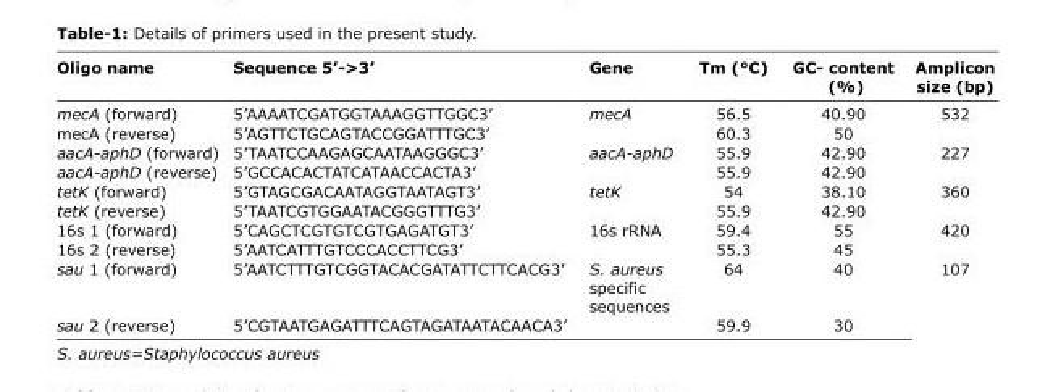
<table><thead><tr><td>Oligo name</td><td>Sequence 5’-&gt;3’</td><td>Gene</td><td>Tm (°C)</td><td>GC- content (%)</td><td>Amplicon size (bp)</td></tr></thead><tbody><tr><td>mecA (forward)</td><td>5’AAAATCGATGGTAAAGGTTGGC3’</td><td rowspan="2">mecA</td><td>56.5</td><td>40.90</td><td rowspan="2">532</td></tr><tr><td>mecA (reverse)</td><td>5’AGTTCTGCAGTACCGGATTTGC3’</td><td>60.3</td><td>50</td></tr><tr><td>aacA‑aphD (forward)</td><td>5’TAATCCAAGAGCAATAAGGGC3’</td><td rowspan="2">aacA‑aphD</td><td>55.9</td><td>42.90</td><td rowspan="2">227</td></tr><tr><td>aacA‑aphD (reverse)</td><td>5’GCCACACTATCATAACCACTA3’</td><td>55.9</td><td>42.90</td></tr><tr><td>tetK (forward)</td><td>5’GTAGCGACAATAGGTAATAGT3’</td><td rowspan="2">tetK</td><td>54</td><td>38.10</td><td rowspan="2">360</td></tr><tr><td>tetK (reverse)</td><td>5’TAATCGTGGAATACGGGTTTG3’</td><td>55.9</td><td>42.90</td></tr><tr><td>16s 1 (forward)</td><td>5’CAGCTCGTGTCGTGAGATGT3’</td><td rowspan="2">16s rRNA</td><td>59.4</td><td>55</td><td rowspan="2">420</td></tr><tr><td>16s 2 (reverse)</td><td>5’AATCATTTGTCCCACCTTCG3’</td><td>55.3</td><td>45</td></tr><tr><td>sau 1 (forward)</td><td>5’AATCTTTGTCGGTACACGATATTCTTCACG3’</td><td>S. aureus specific sequences</td><td>64</td><td>40</td><td rowspan="2">107</td></tr><tr><td>sau 2 (reverse)</td><td>5’CGTAATGAGATTTCAGTAGATAATACAACA3’</td><td></td><td>59.9</td><td>30</td></tr></tbody></table>